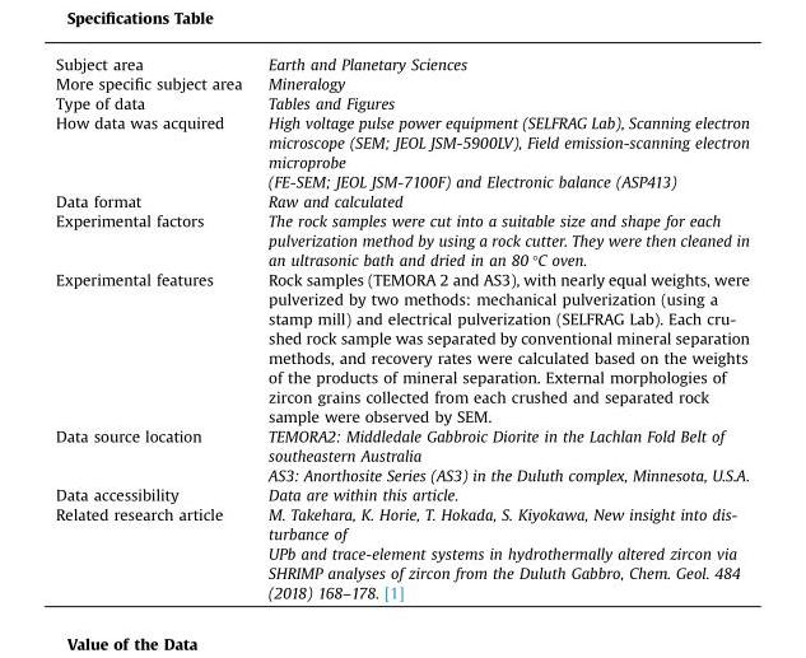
<table><tbody><tr><td>Subject area</td><td>Earth and Planetary Sciences</td></tr><tr><td>More specific subject area</td><td>Mineralogy</td></tr><tr><td>Type of data</td><td>Tables and Figures</td></tr><tr><td>How data was acquired</td><td>High voltage pulse power equipment (SELFRAG Lab), Scanning electron microscope (SEM; JEOL JSM-5900LV), Field emission-scanning electron microprobe (FE-SEM; JEOL JSM-7100F) and Electronic balance (ASP413)</td></tr><tr><td>Data format</td><td>Raw and calculated</td></tr><tr><td>Experimental factors</td><td>The rock samples were cut into a suitable size and shape for each pulverization method by using a rock cutter. They were then cleaned in an ultrasonic bath and dried in an 80 °C oven.</td></tr><tr><td>Experimental features</td><td>Rock samples (TEMORA 2 and AS3), with nearly equal weights, were pulverized by two methods: mechanical pulverization (using a stamp mill) and electrical pulverization (SELFRAG Lab). Each cru- shed rock sample was separated by conventional mineral separation methods, and recovery rates were calculated based on the weights of the products of mineral separation. External morphologies of zircon grains collected from each crushed and separated rock sample were observed by SEM.</td></tr><tr><td rowspan="2">Data source location</td><td>TEMORA2: Middledale Gabbroic Diorite in the Lachlan Fold Belt of southeastern Australia</td></tr><tr><td>AS3: Anorthosite Series (AS3) in the Duluth complex, Minnesota, U.S.A.</td></tr><tr><td>Data accessibility</td><td>Data are within this article.</td></tr><tr><td>Related research article</td><td>M. Takehara, K. Horie, T. Hokada, S. Kiyokawa, New insight into dis- turbance of UPb and trace-element systems in hydrothermally altered zircon via SHRIMP analyses of zircon from the Duluth Gabbro, Chem. Geol. 484 (2018) 168–178. [1]</td></tr></tbody></table>